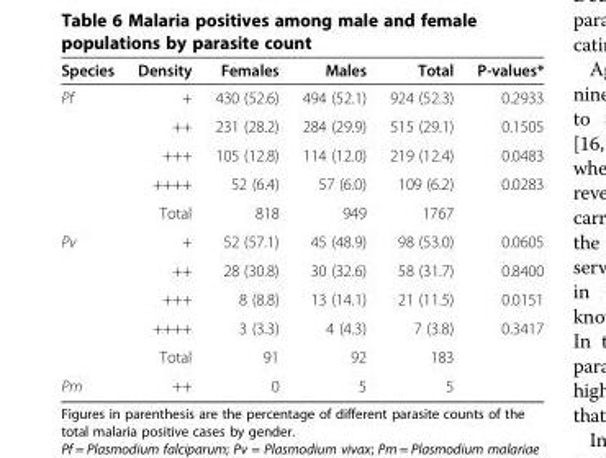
<table><thead><tr><td>Species</td><td>Density</td><td>Females</td><td>Males</td><td>Total</td><td>P-values*</td></tr></thead><tbody><tr><td rowspan="5">Pf</td><td>+</td><td>430 (52.6)</td><td>494 (52.1)</td><td>924 (52.3)</td><td>0.2933</td></tr><tr><td>++</td><td>231 (28.2)</td><td>284 (29.9)</td><td>515 (29.1)</td><td>0.1505</td></tr><tr><td>+++</td><td>105 (12.8)</td><td>114 (12.0)</td><td>219 (12.4)</td><td>0.0483</td></tr><tr><td>++++</td><td>52 (6.4)</td><td>57 (6.0)</td><td>109 (6.2)</td><td>0.0283</td></tr><tr><td>Total</td><td>818</td><td>949</td><td>1767</td><td></td></tr><tr><td rowspan="5">Pv</td><td>+</td><td>52 (57.1)</td><td>45 (48.9)</td><td>98 (53.0)</td><td>0.0605</td></tr><tr><td>++</td><td>28 (30.8)</td><td>30 (32.6)</td><td>58 (31.7)</td><td>0.8400</td></tr><tr><td>+++</td><td>8 (8.8)</td><td>13 (14.1)</td><td>21 (11.5)</td><td>0.0151</td></tr><tr><td>++++</td><td>3 (3.3)</td><td>4 (4.3)</td><td>7 (3.8)</td><td>0.3417</td></tr><tr><td>Total</td><td>91</td><td>92</td><td>183</td><td></td></tr><tr><td>Pm</td><td>++</td><td>0</td><td>5</td><td>5</td><td></td></tr></tbody></table>